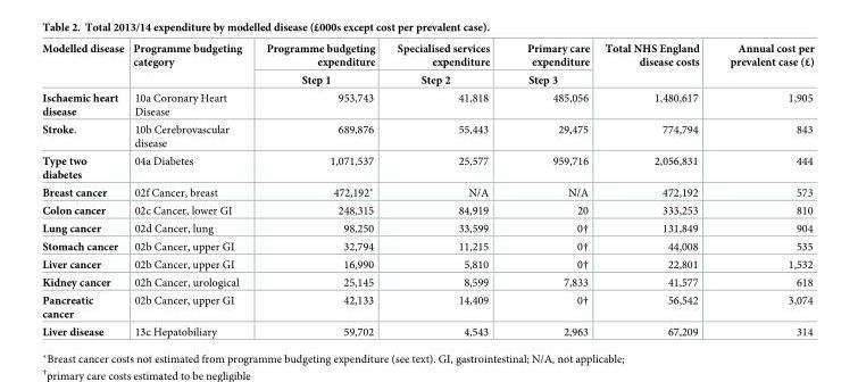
<table><thead><tr><td rowspan="2">Modelled disease</td><td rowspan="2">Programme budgeting category</td><td rowspan="2">Programme budgeting expenditure Step 1</td><td rowspan="2">Specialised services expenditure Step 2</td><td rowspan="2">Primary care expenditure Step 3</td><td rowspan="2">Total NHS England disease costs</td><td rowspan="2">Annual cost per prevalent case (£)</td></tr><tr></tr></thead><tbody><tr><td>Ischaemic heart disease</td><td>10a Coronary Heart Disease</td><td>953,743</td><td>41,818</td><td>485,056</td><td>1,480,617</td><td>1,905</td></tr><tr><td>Stroke.</td><td>10b Cerebrovascular disease</td><td>689,876</td><td>55,443</td><td>29,475</td><td>774,794</td><td>843</td></tr><tr><td>Type two diabetes</td><td>04a Diabetes</td><td>1,071,537</td><td>25,577</td><td>959,716</td><td>2,056,831</td><td>444</td></tr><tr><td>Breast cancer</td><td>02f Cancer, breast</td><td>472,192*</td><td>N/A</td><td>N/A</td><td>472,192</td><td>573</td></tr><tr><td>Colon cancer</td><td>02c Cancer, lower GI</td><td>248,315</td><td>84,919</td><td>20</td><td>333,253</td><td>810</td></tr><tr><td>Lung cancer</td><td>02d Cancer, lung</td><td>98,250</td><td>33,599</td><td>0†</td><td>131,849</td><td>904</td></tr><tr><td>Stomach cancer</td><td>02b Cancer, upper GI</td><td>32,794</td><td>11,215</td><td>0†</td><td>44,008</td><td>535</td></tr><tr><td>Liver cancer</td><td>02b Cancer, upper GI</td><td>16,990</td><td>5,810</td><td>0†</td><td>22,801</td><td>1,532</td></tr><tr><td>Kidney cancer</td><td>02h Cancer, urological</td><td>25,145</td><td>8,599</td><td>7,833</td><td>41,577</td><td>618</td></tr><tr><td>Pancreatic cancer</td><td>02b Cancer, upper GI</td><td>42,133</td><td>14,409</td><td>0†</td><td>56,542</td><td>3,074</td></tr><tr><td>Liver disease</td><td>13c Hepatobiliary</td><td>59,702</td><td>4,543</td><td>2,963</td><td>67,209</td><td>314</td></tr></tbody></table>